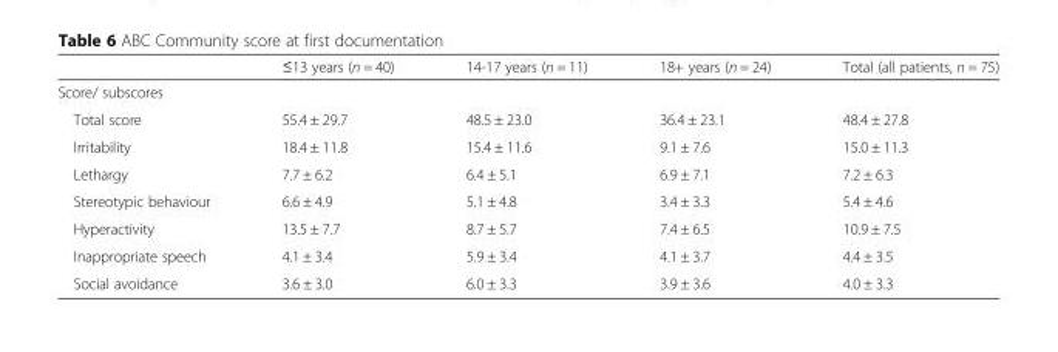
<table><thead><tr><td></td><td>≤13 years (n = 40)</td><td>14-17 years (n = 11)</td><td>18+ years (n = 24)</td><td>Total (all patients, n = 75)</td></tr></thead><tbody><tr><td colspan="5">Score/ subscores</td></tr><tr><td>Total score</td><td>55.4 ± 29.7</td><td>48.5 ± 23.0</td><td>36.4 ± 23.1</td><td>48.4 ± 27.8</td></tr><tr><td>Irritability</td><td>18.4 ± 11.8</td><td>15.4 ± 11.6</td><td>9.1 ± 7.6</td><td>15.0 ± 11.3</td></tr><tr><td>Lethargy</td><td>7.7 ± 6.2</td><td>6.4 ± 5.1</td><td>6.9 ± 7.1</td><td>7.2 ± 6.3</td></tr><tr><td>Stereotypic behaviour</td><td>6.6 ± 4.9</td><td>5.1 ± 4.8</td><td>3.4 ± 3.3</td><td>5.4 ± 4.6</td></tr><tr><td>Hyperactivity</td><td>13.5 ± 7.7</td><td>8.7 ± 5.7</td><td>7.4 ± 6.5</td><td>10.9 ± 7.5</td></tr><tr><td>Inappropriate speech</td><td>4.1 ± 3.4</td><td>5.9 ± 3.4</td><td>4.1 ± 3.7</td><td>4.4 ± 3.5</td></tr><tr><td>Social avoidance</td><td>3.6 ± 3.0</td><td>6.0 ± 3.3</td><td>3.9 ± 3.6</td><td>4.0 ± 3.3</td></tr></tbody></table>